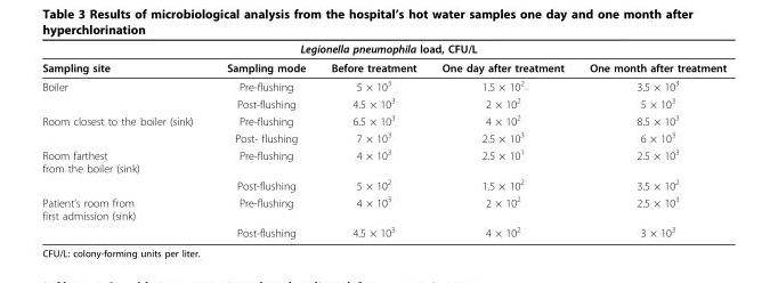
<table><thead><tr><td colspan="5">Legionella pneumophila load, CFU/L</td></tr><tr><td>Sampling site</td><td>Sampling mode</td><td>Before treatment</td><td>One day after treatment</td><td>One month after treatment</td></tr></thead><tbody><tr><td rowspan="2">Boiler</td><td>Pre-flushing</td><td>5 × 10<sup>3</sup></td><td>1.5 × 10<sup>2</sup></td><td>3.5 × 10<sup>3</sup></td></tr><tr><td>Post-flushing</td><td>4.5 × 10<sup>3</sup></td><td>2 × 10<sup>2</sup></td><td>5 × 10<sup>3</sup></td></tr><tr><td rowspan="2">Room closest to the boiler (sink)</td><td>Pre-flushing</td><td>6.5 × 10<sup>3</sup></td><td>4 × 10<sup>2</sup></td><td>8.5 × 10<sup>3</sup></td></tr><tr><td>Post- flushing</td><td>7 × 10<sup>3</sup></td><td>2.5 × 10<sup>3</sup></td><td>6 × 10<sup>3</sup></td></tr><tr><td rowspan="2">Room farthest from the boiler (sink)</td><td>Pre-flushing</td><td>4 × 10<sup>3</sup></td><td>2.5 × 10<sup>1</sup></td><td>2.5 × 10<sup>3</sup></td></tr><tr><td>Post-flushing</td><td>5 × 10<sup>2</sup></td><td>1.5 × 10<sup>2</sup></td><td>3.5 × 10<sup>2</sup></td></tr><tr><td rowspan="2">Patient’s room from first admission (sink)</td><td>Pre-flushing</td><td>4 × 10<sup>3</sup></td><td>2 × 10<sup>2</sup></td><td>2.5 × 10<sup>3</sup></td></tr><tr><td>Post-flushing</td><td>4.5 × 10<sup>3</sup></td><td>4 × 10<sup>2</sup></td><td>3 × 10<sup>3</sup></td></tr></tbody></table>